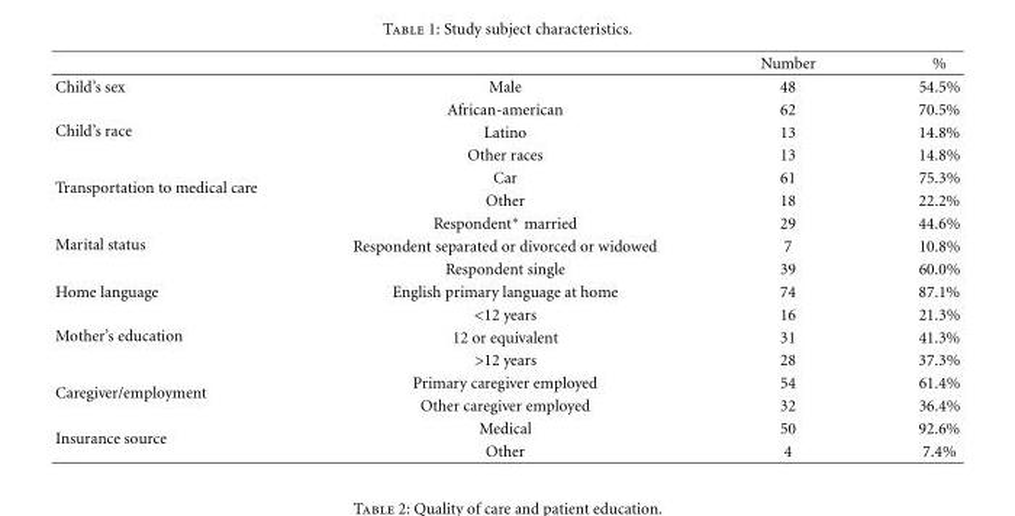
<table><thead><tr><td></td><td></td><td>Number</td><td>%</td></tr></thead><tbody><tr><td>Child’s sex</td><td>Male</td><td>48</td><td>54.5%</td></tr><tr><td rowspan="3">Child’s race</td><td>African-american</td><td>62</td><td>70.5%</td></tr><tr><td>Latino</td><td>13</td><td>14.8%</td></tr><tr><td>Other races</td><td>13</td><td>14.8%</td></tr><tr><td rowspan="2">Transportation to medical care</td><td>Car</td><td>61</td><td>75.3%</td></tr><tr><td>Other</td><td>18</td><td>22.2%</td></tr><tr><td rowspan="3">Marital status</td><td>Respondent∗ married</td><td>29</td><td>44.6%</td></tr><tr><td>Respondent separated or divorced or widowed</td><td>7</td><td>10.8%</td></tr><tr><td>Respondent single</td><td>39</td><td>60.0%</td></tr><tr><td>Home language</td><td>English primary language at home</td><td>74</td><td>87.1%</td></tr><tr><td rowspan="3">Mother’s education</td><td>&lt;12 years</td><td>16</td><td>21.3%</td></tr><tr><td>12 or equivalent</td><td>31</td><td>41.3%</td></tr><tr><td>&gt;12 years</td><td>28</td><td>37.3%</td></tr><tr><td rowspan="2">Caregiver/employment</td><td>Primary caregiver employed</td><td>54</td><td>61.4%</td></tr><tr><td>Other caregiver employed</td><td>32</td><td>36.4%</td></tr><tr><td rowspan="2">Insurance source</td><td>Medical</td><td>50</td><td>92.6%</td></tr><tr><td>Other</td><td>4</td><td>7.4%</td></tr></tbody></table>